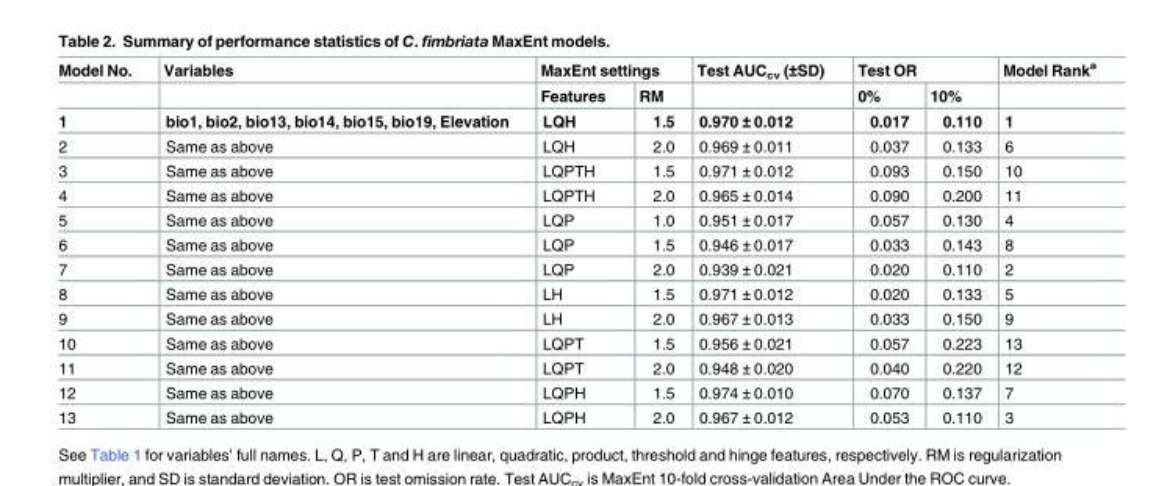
<table><thead><tr><td rowspan="2">Model No.</td><td rowspan="2">Variables</td><td colspan="2">MaxEnt settings</td><td rowspan="2">Test AUC<sub>cv</sub> (±SD)</td><td colspan="2">Test OR</td><td rowspan="2">Model Rank<sup>a</sup></td></tr><tr><td>Features</td><td>RM</td><td>0%</td><td>10%</td></tr></thead><tbody><tr><td>1</td><td>bio1, bio2, bio13, bio14, bio15, bio19, Elevation</td><td>LQH</td><td>1.5</td><td>0.970 ± 0.012</td><td>0.017</td><td>0.110</td><td>1</td></tr><tr><td>2</td><td>Same as above</td><td>LQH</td><td>2.0</td><td>0.969 ± 0.011</td><td>0.037</td><td>0.133</td><td>6</td></tr><tr><td>3</td><td>Same as above</td><td>LQPTH</td><td>1.5</td><td>0.971 ± 0.012</td><td>0.093</td><td>0.150</td><td>10</td></tr><tr><td>4</td><td>Same as above</td><td>LQPTH</td><td>2.0</td><td>0.965 ± 0.014</td><td>0.090</td><td>0.200</td><td>11</td></tr><tr><td>5</td><td>Same as above</td><td>LQP</td><td>1.0</td><td>0.951 ± 0.017</td><td>0.057</td><td>0.130</td><td>4</td></tr><tr><td>6</td><td>Same as above</td><td>LQP</td><td>1.5</td><td>0.946 ± 0.017</td><td>0.033</td><td>0.143</td><td>8</td></tr><tr><td>7</td><td>Same as above</td><td>LQP</td><td>2.0</td><td>0.939 ± 0.021</td><td>0.020</td><td>0.110</td><td>2</td></tr><tr><td>8</td><td>Same as above</td><td>LH</td><td>1.5</td><td>0.971 ± 0.012</td><td>0.020</td><td>0.133</td><td>5</td></tr><tr><td>9</td><td>Same as above</td><td>LH</td><td>2.0</td><td>0.967 ± 0.013</td><td>0.033</td><td>0.150</td><td>9</td></tr><tr><td>10</td><td>Same as above</td><td>LQPT</td><td>1.5</td><td>0.956 ± 0.021</td><td>0.057</td><td>0.223</td><td>13</td></tr><tr><td>11</td><td>Same as above</td><td>LQPT</td><td>2.0</td><td>0.948 ± 0.020</td><td>0.040</td><td>0.220</td><td>12</td></tr><tr><td>12</td><td>Same as above</td><td>LQPH</td><td>1.5</td><td>0.974 ± 0.010</td><td>0.070</td><td>0.137</td><td>7</td></tr><tr><td>13</td><td>Same as above</td><td>LQPH</td><td>2.0</td><td>0.967 ± 0.012</td><td>0.053</td><td>0.110</td><td>3</td></tr></tbody></table>